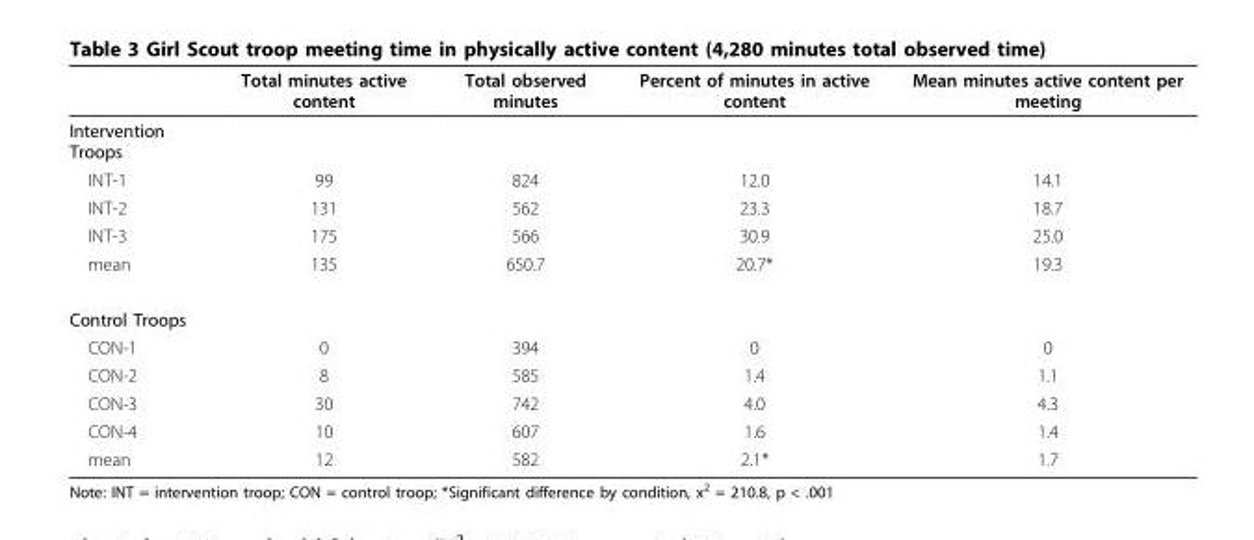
<table><thead><tr><td></td><td>Total minutes active content</td><td>Total observed minutes</td><td>Percent of minutes in active content</td><td>Mean minutes active content per meeting</td></tr></thead><tbody><tr><td colspan="5">Intervention Troops</td></tr><tr><td>INT-1</td><td>99</td><td>824</td><td>12.0</td><td>14.1</td></tr><tr><td>INT-2</td><td>131</td><td>562</td><td>23.3</td><td>18.7</td></tr><tr><td>INT-3</td><td>175</td><td>566</td><td>30.9</td><td>25.0</td></tr><tr><td>mean</td><td>135</td><td>650.7</td><td>20.7*</td><td>19.3</td></tr><tr><td colspan="5">Control Troops</td></tr><tr><td>CON-1</td><td>0</td><td>394</td><td>0</td><td>0</td></tr><tr><td>CON-2</td><td>8</td><td>585</td><td>1.4</td><td>1.1</td></tr><tr><td>CON-3</td><td>30</td><td>742</td><td>4.0</td><td>4.3</td></tr><tr><td>CON-4</td><td>10</td><td>607</td><td>1.6</td><td>1.4</td></tr><tr><td>mean</td><td>12</td><td>582</td><td>2.1*</td><td>1.7</td></tr></tbody></table>